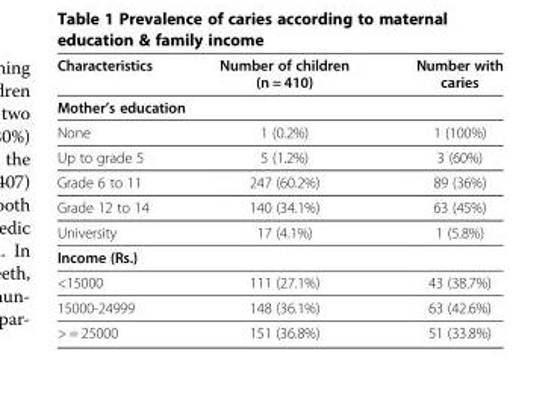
<table><thead><tr><td>Characteristics</td><td>Number of children (n = 410)</td><td>Number with caries</td></tr></thead><tbody><tr><td colspan="3">Mother’s education</td></tr><tr><td>None</td><td>1 (0.2%)</td><td>1 (100%)</td></tr><tr><td>Up to grade 5</td><td>5 (1.2%)</td><td>3 (60%)</td></tr><tr><td>Grade 6 to 11</td><td>247 (60.2%)</td><td>89 (36%)</td></tr><tr><td>Grade 12 to 14</td><td>140 (34.1%)</td><td>63 (45%)</td></tr><tr><td>University</td><td>17 (4.1%)</td><td>1 (5.8%)</td></tr><tr><td colspan="3">Income (Rs.)</td></tr><tr><td>&lt;15000</td><td>111 (27.1%)</td><td>43 (38.7%)</td></tr><tr><td>15000-24999</td><td>148 (36.1%)</td><td>63 (42.6%)</td></tr><tr><td>&gt; = 25000</td><td>151 (36.8%)</td><td>51 (33.8%)</td></tr></tbody></table>